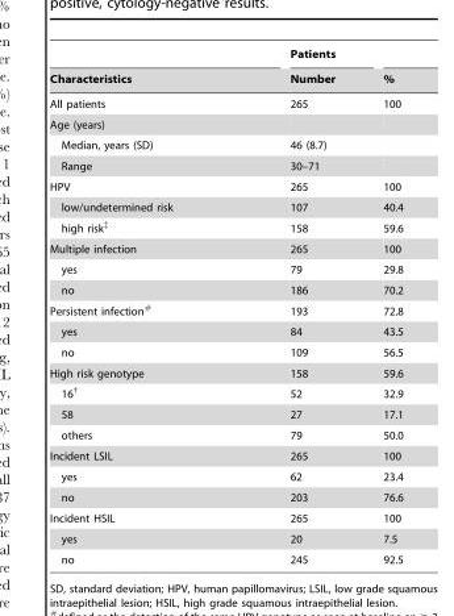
<table><thead><tr><td rowspan="2">Characteristics</td><td rowspan="2">Patients Number</td><td rowspan="2">%</td></tr><tr></tr></thead><tbody><tr><td>All patients</td><td>265</td><td>100</td></tr><tr><td colspan="3">Age (years)</td></tr><tr><td>Median, years (SD)</td><td>46 (8.7)</td><td></td></tr><tr><td>Range</td><td>30–71</td><td></td></tr><tr><td>HPV</td><td>265</td><td>100</td></tr><tr><td>low/undetermined risk</td><td>107</td><td>40.4</td></tr><tr><td>high risk‡</td><td>158</td><td>59.6</td></tr><tr><td>Multiple infection</td><td>265</td><td>100</td></tr><tr><td>yes</td><td>79</td><td>29.8</td></tr><tr><td>no</td><td>186</td><td>70.2</td></tr><tr><td>Persistent infection#</td><td>193</td><td>72.8</td></tr><tr><td>yes</td><td>84</td><td>43.5</td></tr><tr><td>no</td><td>109</td><td>56.5</td></tr><tr><td>High risk genotype</td><td>158</td><td>59.6</td></tr><tr><td>16†</td><td>52</td><td>32.9</td></tr><tr><td>58</td><td>27</td><td>17.1</td></tr><tr><td>others</td><td>79</td><td>50.0</td></tr><tr><td>Incident LSIL</td><td>265</td><td>100</td></tr><tr><td>yes</td><td>62</td><td>23.4</td></tr><tr><td>no</td><td>203</td><td>76.6</td></tr><tr><td>Incident HSIL</td><td>265</td><td>100</td></tr><tr><td>yes</td><td>20</td><td>7.5</td></tr><tr><td>no</td><td>245</td><td>92.5</td></tr></tbody></table>